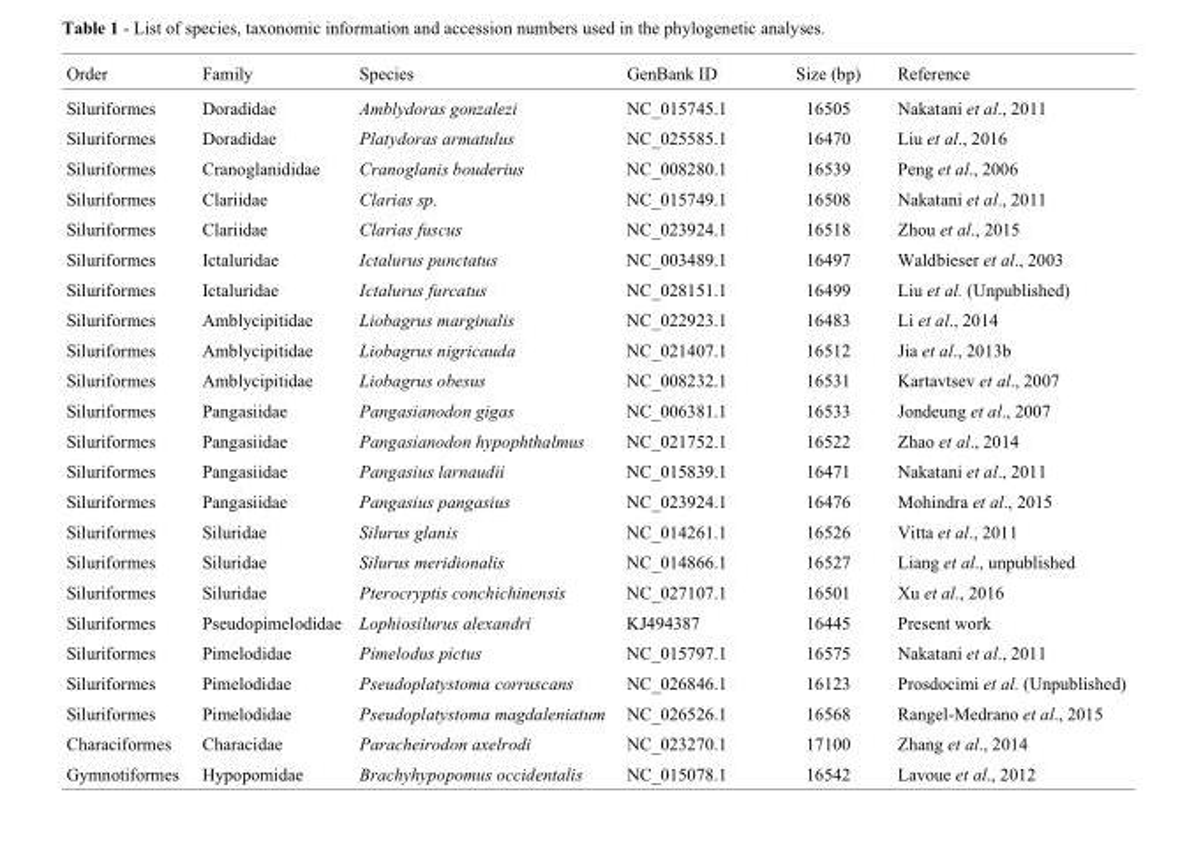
<table><thead><tr><td>Order</td><td>Family</td><td>Species</td><td>GenBank ID</td><td>Size (bp)</td><td>Reference</td></tr></thead><tbody><tr><td>Siluriformes</td><td>Doradidae</td><td>Amblydoras gonzalezi</td><td>NC_015745.1</td><td>16505</td><td>Nakatani et al., 2011</td></tr><tr><td>Siluriformes</td><td>Doradidae</td><td>Platydoras armatulus</td><td>NC_025585.1</td><td>16470</td><td>Liu et al., 2016</td></tr><tr><td>Siluriformes</td><td>Cranoglanididae</td><td>Cranoglanis bouderius</td><td>NC_008280.1</td><td>16539</td><td>Peng et al., 2006</td></tr><tr><td>Siluriformes</td><td>Clariidae</td><td>Clarias sp.</td><td>NC_015749.1</td><td>16508</td><td>Nakatani et al., 2011</td></tr><tr><td>Siluriformes</td><td>Clariidae</td><td>Clarias fuscus</td><td>NC_023924.1</td><td>16518</td><td>Zhou et al., 2015</td></tr><tr><td>Siluriformes</td><td>Ictaluridae</td><td>Ictalurus punctatus</td><td>NC_003489.1</td><td>16497</td><td>Waldbieser et al., 2003</td></tr><tr><td>Siluriformes</td><td>Ictaluridae</td><td>Ictalurus furcatus</td><td>NC_028151.1</td><td>16499</td><td>Liu et al. (Unpublished)</td></tr><tr><td>Siluriformes</td><td>Amblycipitidae</td><td>Liobagrus marginalis</td><td>NC_022923.1</td><td>16483</td><td>Li et al., 2014</td></tr><tr><td>Siluriformes</td><td>Amblycipitidae</td><td>Liobagrus nigricauda</td><td>NC_021407.1</td><td>16512</td><td>Jia et al., 2013b</td></tr><tr><td>Siluriformes</td><td>Amblycipitidae</td><td>Liobagrus obesus</td><td>NC_008232.1</td><td>16531</td><td>Kartavtsev et al., 2007</td></tr><tr><td>Siluriformes</td><td>Pangasiidae</td><td>Pangasianodon gigas</td><td>NC_006381.1</td><td>16533</td><td>Jondeung et al., 2007</td></tr><tr><td>Siluriformes</td><td>Pangasiidae</td><td>Pangasianodon hypophthalmus</td><td>NC_021752.1</td><td>16522</td><td>Zhao et al., 2014</td></tr><tr><td>Siluriformes</td><td>Pangasiidae</td><td>Pangasius larnaudii</td><td>NC_015839.1</td><td>16471</td><td>Nakatani et al., 2011</td></tr><tr><td>Siluriformes</td><td>Pangasiidae</td><td>Pangasius pangasius</td><td>NC_023924.1</td><td>16476</td><td>Mohindra et al., 2015</td></tr><tr><td>Siluriformes</td><td>Siluridae</td><td>Silurus glanis</td><td>NC_014261.1</td><td>16526</td><td>Vitta et al., 2011</td></tr><tr><td>Siluriformes</td><td>Siluridae</td><td>Silurus meridionalis</td><td>NC_014866.1</td><td>16527</td><td>Liang et al., unpublished</td></tr><tr><td>Siluriformes</td><td>Siluridae</td><td>Pterocryptis conchichinensis</td><td>NC_027107.1</td><td>16501</td><td>Xu et al., 2016</td></tr><tr><td>Siluriformes</td><td>Pseudopimelodidae</td><td>Lophiosilurus alexandri</td><td>KJ494387</td><td>16445</td><td>Present work</td></tr><tr><td>Siluriformes</td><td>Pimelodidae</td><td>Pimelodus pictus</td><td>NC_015797.1</td><td>16575</td><td>Nakatani et al., 2011</td></tr><tr><td>Siluriformes</td><td>Pimelodidae</td><td>Pseudoplatystoma corruscans</td><td>NC_026846.1</td><td>16123</td><td>Prosdocimi et al. (Unpublished)</td></tr><tr><td>Siluriformes</td><td>Pimelodidae</td><td>Pseudoplatystoma magdaleniatum</td><td>NC_026526.1</td><td>16568</td><td>Rangel-Medrano et al., 2015</td></tr><tr><td>Characiformes</td><td>Characidae</td><td>Paracheirodon axelrodi</td><td>NC_023270.1</td><td>17100</td><td>Zhang et al., 2014</td></tr><tr><td>Gymnotiformes</td><td>Hypopomidae</td><td>Brachyhypopomus occidentalis</td><td>NC_015078.1</td><td>16542</td><td>Lavoue et al., 2012</td></tr></tbody></table>